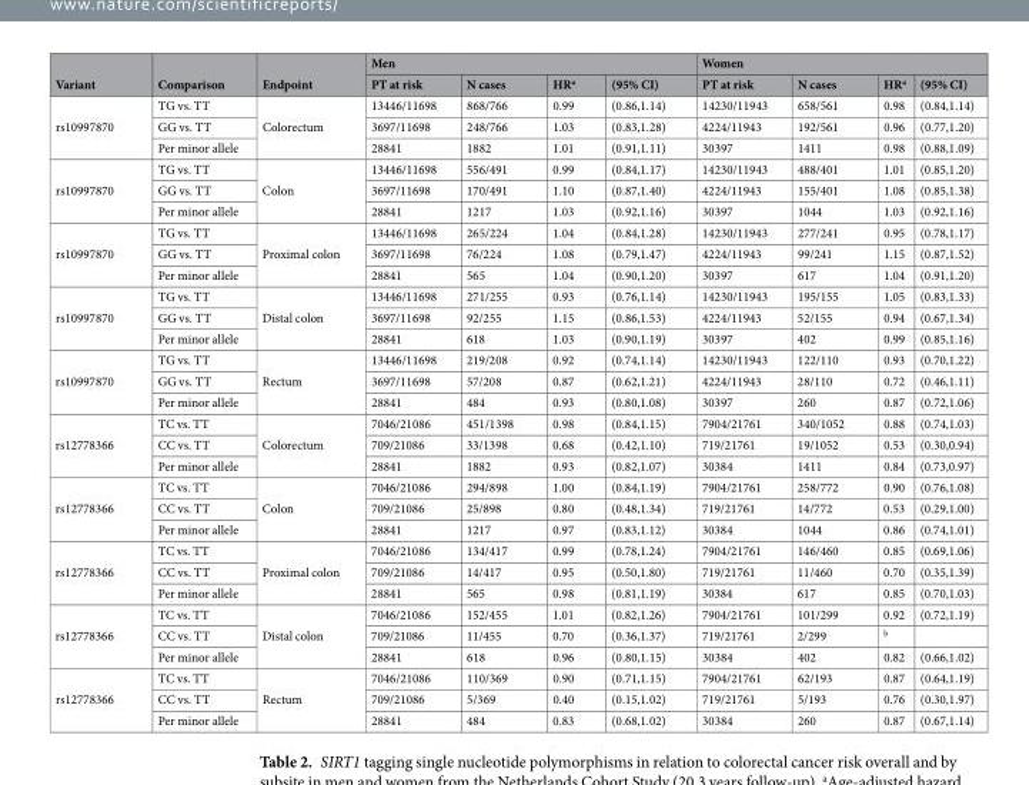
<table><thead><tr><td rowspan="2">Variant</td><td rowspan="2">Comparison</td><td rowspan="2">Endpoint</td><td colspan="4">Men</td><td colspan="4">Women</td></tr><tr><td>PT at risk</td><td>N cases</td><td>HR<sup>a</sup></td><td>(95% CI)</td><td>PT at risk</td><td>N cases</td><td>HR<sup>a</sup></td><td>(95% CI)</td></tr></thead><tbody><tr><td rowspan="3">rs10997870</td><td>TG vs. TT</td><td rowspan="3">Colorectum</td><td>13446/11698</td><td>868/766</td><td>0.99</td><td>(0.86,1.14)</td><td>14230/11943</td><td>658/561</td><td>0.98</td><td>(0.84,1.14)</td></tr><tr><td>GG vs. TT</td><td>3697/11698</td><td>248/766</td><td>1.03</td><td>(0.83,1.28)</td><td>4224/11943</td><td>192/561</td><td>0.96</td><td>(0.77,1.20)</td></tr><tr><td>Per minor allele</td><td>28841</td><td>1882</td><td>1.01</td><td>(0.91,1.11)</td><td>30397</td><td>1411</td><td>0.98</td><td>(0.88,1.09)</td></tr><tr><td rowspan="3">rs10997870</td><td>TG vs. TT</td><td rowspan="3">Colon</td><td>13446/11698</td><td>556/491</td><td>0.99</td><td>(0.84,1.17)</td><td>14230/11943</td><td>488/401</td><td>1.01</td><td>(0.85,1.20)</td></tr><tr><td>GG vs. TT</td><td>3697/11698</td><td>170/491</td><td>1.10</td><td>(0.87,1.40)</td><td>4224/11943</td><td>155/401</td><td>1.08</td><td>(0.85,1.38)</td></tr><tr><td>Per minor allele</td><td>28841</td><td>1217</td><td>1.03</td><td>(0.92,1.16)</td><td>30397</td><td>1044</td><td>1.03</td><td>(0.92,1.16)</td></tr><tr><td rowspan="3">rs10997870</td><td>TG vs. TT</td><td rowspan="3">Proximal colon</td><td>13446/11698</td><td>265/224</td><td>1.04</td><td>(0.84,1.28)</td><td>14230/11943</td><td>277/241</td><td>0.95</td><td>(0.78,1.17)</td></tr><tr><td>GG vs. TT</td><td>3697/11698</td><td>76/224</td><td>1.08</td><td>(0.79,1.47)</td><td>4224/11943</td><td>99/241</td><td>1.15</td><td>(0.87,1.52)</td></tr><tr><td>Per minor allele</td><td>28841</td><td>565</td><td>1.04</td><td>(0.90,1.20)</td><td>30397</td><td>617</td><td>1.04</td><td>(0.91,1.20)</td></tr><tr><td rowspan="3">rs10997870</td><td>TG vs. TT</td><td rowspan="3">Distal colon</td><td>13446/11698</td><td>271/255</td><td>0.93</td><td>(0.76,1.14)</td><td>14230/11943</td><td>195/155</td><td>1.05</td><td>(0.83,1.33)</td></tr><tr><td>GG vs. TT</td><td>3697/11698</td><td>92/255</td><td>1.15</td><td>(0.86,1.53)</td><td>4224/11943</td><td>52/155</td><td>0.94</td><td>(0.67,1.34)</td></tr><tr><td>Per minor allele</td><td>28841</td><td>618</td><td>1.03</td><td>(0.90,1.19)</td><td>30397</td><td>402</td><td>0.99</td><td>(0.85,1.16)</td></tr><tr><td rowspan="3">rs10997870</td><td>TG vs. TT</td><td rowspan="3">Rectum</td><td>13446/11698</td><td>219/208</td><td>0.92</td><td>(0.74,1.14)</td><td>14230/11943</td><td>122/110</td><td>0.93</td><td>(0.70,1.22)</td></tr><tr><td>GG vs. TT</td><td>3697/11698</td><td>57/208</td><td>0.87</td><td>(0.62,1.21)</td><td>4224/11943</td><td>28/110</td><td>0.72</td><td>(0.46,1.11)</td></tr><tr><td>Per minor allele</td><td>28841</td><td>484</td><td>0.93</td><td>(0.80,1.08)</td><td>30397</td><td>260</td><td>0.87</td><td>(0.72,1.06)</td></tr><tr><td rowspan="3">rs12778366</td><td>TC vs. TT</td><td rowspan="3">Colorectum</td><td>7046/21086</td><td>451/1398</td><td>0.98</td><td>(0.84,1.15)</td><td>7904/21761</td><td>340/1052</td><td>0.88</td><td>(0.74,1.03)</td></tr><tr><td>CC vs. TT</td><td>709/21086</td><td>33/1398</td><td>0.68</td><td>(0.42,1.10)</td><td>719/21761</td><td>19/1052</td><td>0.53</td><td>(0.30,0.94)</td></tr><tr><td>Per minor allele</td><td>28841</td><td>1882</td><td>0.93</td><td>(0.82,1.07)</td><td>30384</td><td>1411</td><td>0.84</td><td>(0.73,0.97)</td></tr><tr><td rowspan="3">rs12778366</td><td>TC vs. TT</td><td rowspan="3">Colon</td><td>7046/21086</td><td>294/898</td><td>1.00</td><td>(0.84,1.19)</td><td>7904/21761</td><td>258/772</td><td>0.90</td><td>(0.76,1.08)</td></tr><tr><td>CC vs. TT</td><td>709/21086</td><td>25/898</td><td>0.80</td><td>(0.48,1.34)</td><td>719/21761</td><td>14/772</td><td>0.53</td><td>(0.29,1.00)</td></tr><tr><td>Per minor allele</td><td>28841</td><td>1217</td><td>0.97</td><td>(0.83,1.12)</td><td>30384</td><td>1044</td><td>0.86</td><td>(0.74,1.01)</td></tr><tr><td rowspan="3">rs12778366</td><td>TC vs. TT</td><td rowspan="3">Proximal colon</td><td>7046/21086</td><td>134/417</td><td>0.99</td><td>(0.78,1.24)</td><td>7904/21761</td><td>146/460</td><td>0.85</td><td>(0.69,1.06)</td></tr><tr><td>CC vs. TT</td><td>709/21086</td><td>14/417</td><td>0.95</td><td>(0.50,1.80)</td><td>719/21761</td><td>11/460</td><td>0.70</td><td>(0.35,1.39)</td></tr><tr><td>Per minor allele</td><td>28841</td><td>565</td><td>0.98</td><td>(0.81,1.19)</td><td>30384</td><td>617</td><td>0.85</td><td>(0.70,1.03)</td></tr><tr><td rowspan="3">rs12778366</td><td>TC vs. TT</td><td rowspan="3">Distal colon</td><td>7046/21086</td><td>152/455</td><td>1.01</td><td>(0.82,1.26)</td><td>7904/21761</td><td>101/299</td><td>0.92</td><td>(0.72,1.19)</td></tr><tr><td>CC vs. TT</td><td>709/21086</td><td>11/455</td><td>0.70</td><td>(0.36,1.37)</td><td>719/21761</td><td>2/299</td><td><sup>b</sup></td><td></td></tr><tr><td>Per minor allele</td><td>28841</td><td>618</td><td>0.96</td><td>(0.80,1.15)</td><td>30384</td><td>402</td><td>0.82</td><td>(0.66,1.02)</td></tr><tr><td rowspan="3">rs12778366</td><td>TC vs. TT</td><td rowspan="3">Rectum</td><td>7046/21086</td><td>110/369</td><td>0.90</td><td>(0.71,1.15)</td><td>7904/21761</td><td>62/193</td><td>0.87</td><td>(0.64,1.19)</td></tr><tr><td>CC vs. TT</td><td>709/21086</td><td>5/369</td><td>0.40</td><td>(0.15,1.02)</td><td>719/21761</td><td>5/193</td><td>0.76</td><td>(0.30,1.97)</td></tr><tr><td>Per minor allele</td><td>28841</td><td>484</td><td>0.83</td><td>(0.68,1.02)</td><td>30384</td><td>260</td><td>0.87</td><td>(0.67,1.14)</td></tr></tbody></table>